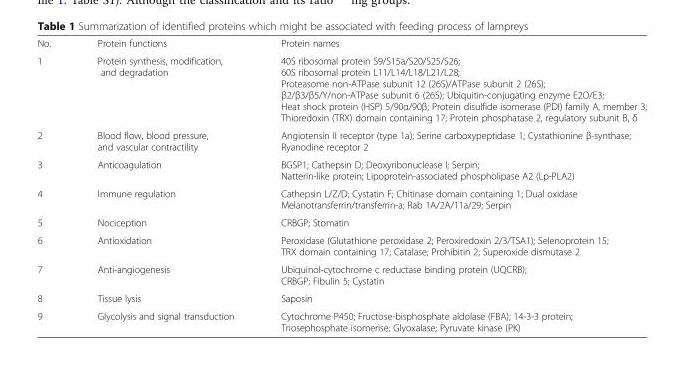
<table><tbody><tr><td>No.</td><td>Protein functions</td><td>Protein names</td></tr><tr><td>1</td><td>Protein synthesis, modification, and degradation</td><td>40S ribosomal protein S9/S15a/S20/S25/S26; 60S ribosomal protein L11/L14/L18/L21/L28; Proteasome non-ATPase subunit 12 (26S)/ATPase subunit 2 (26S); β2/β3/β5/Y/non-ATPase subunit 6 (26S); Ubiquitin-conjugating enzyme E2O/E3; Heat shock protein (HSP) 5/90α/90β; Protein disulfide isomerase (PDI) family A, member 3; Thioredoxin (TRX) domain containing 17; Protein phosphatase 2, regulatory subunit B, δ</td></tr><tr><td>2</td><td>Blood flow, blood pressure, and vascular contractility</td><td>Angiotensin II receptor (type 1a); Serine carboxypeptidase 1; Cystathionine β-synthase; Ryanodine receptor 2</td></tr><tr><td>3</td><td>Anticoagulation</td><td>BGSP1; Cathepsin D; Deoxyribonuclease I; Serpin; Natterin-like protein; Lipoprotein-associated phospholipase A2 (Lp-PLA2)</td></tr><tr><td>4</td><td>Immune regulation</td><td>Cathepsin L/Z/D; Cystatin F; Chitinase domain containing 1; Dual oxidase Melanotransferrin/transferrin-a; Rab 1A/2A/11a/29; Serpin</td></tr><tr><td>5</td><td>Nociception</td><td>CRBGP; Stomatin</td></tr><tr><td>6</td><td>Antioxidation</td><td>Peroxidase (Glutathione peroxidase 2; Peroxiredoxin 2/3/TSA1); Selenoprotein 15; TRX domain containing 17; Catalase; Prohibitin 2; Superoxide dismutase 2</td></tr><tr><td>7</td><td>Anti-angiogenesis</td><td>Ubiquinol-cytochrome c reductase binding protein (UQCRB); CRBGP; Fibulin 5; Cystatin</td></tr><tr><td>8</td><td>Tissue lysis</td><td>Saposin</td></tr><tr><td>9</td><td>Glycolysis and signal transduction</td><td>Cytochrome P450; Fructose-bisphosphate aldolase (FBA); 14-3-3 protein; Triosephosphate isomerise; Glyoxalase; Pyruvate kinase (PK)</td></tr></tbody></table>